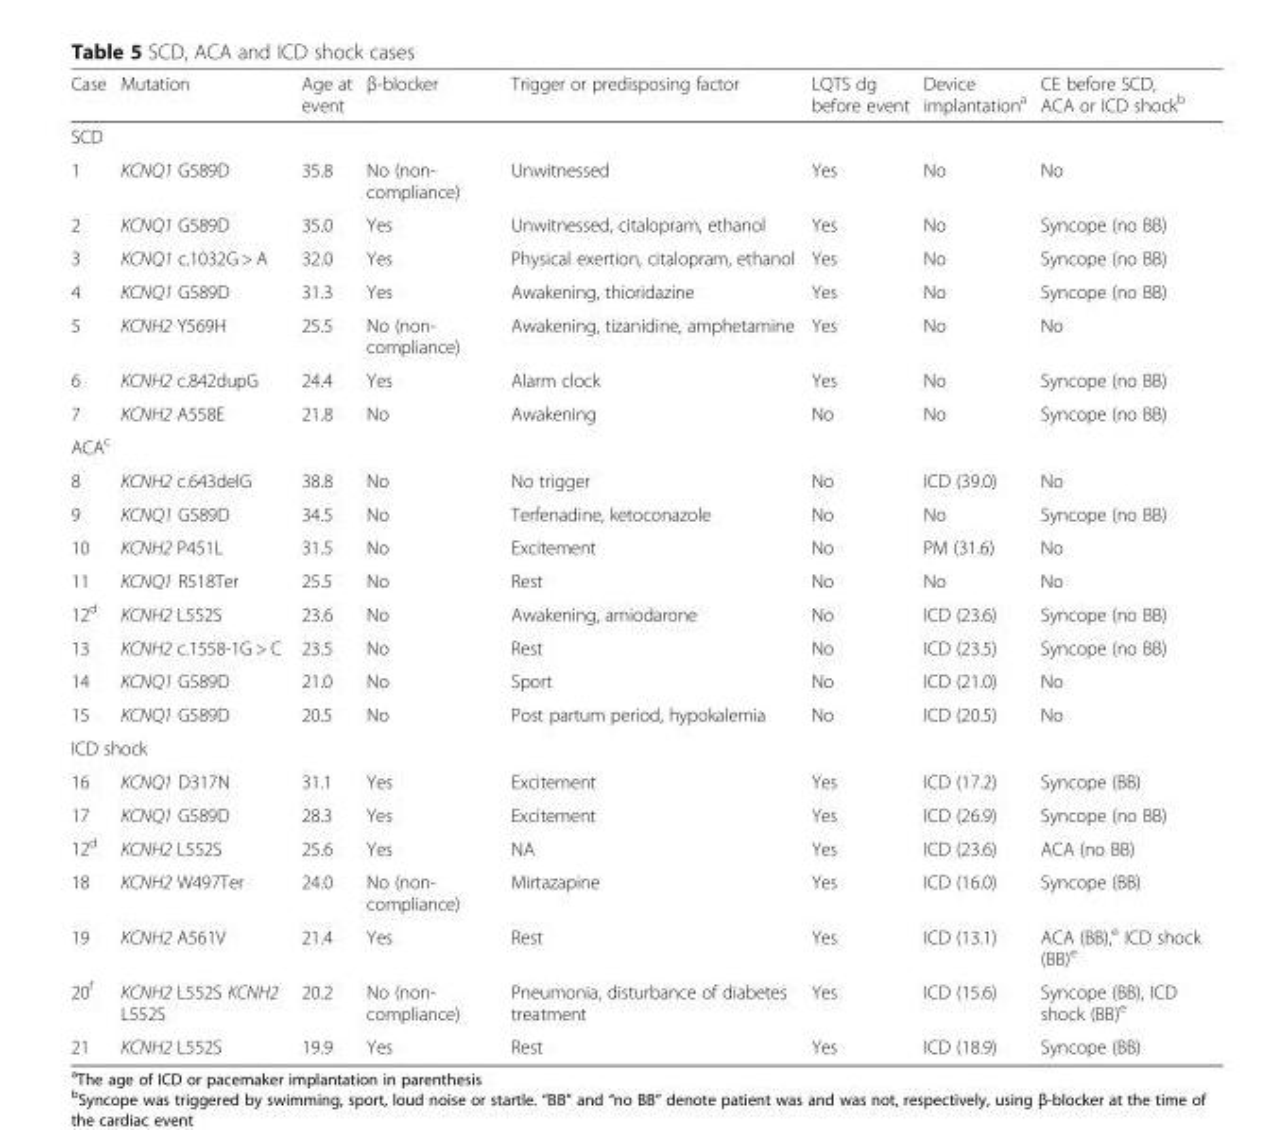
<table><thead><tr><td>Case</td><td>Mutation</td><td>Age at event</td><td>β-blocker</td><td>Trigger or predisposing factor</td><td>LQTS dg before event</td><td>Device implantation<sup>a</sup></td><td>CE before SCD, ACA or ICD shock<sup>b</sup></td></tr></thead><tbody><tr><td colspan="8">SCD</td></tr><tr><td>1</td><td>KCNQ1 G589D</td><td>35.8</td><td>No (non- compliance)</td><td>Unwitnessed</td><td>Yes</td><td>No</td><td>No</td></tr><tr><td>2</td><td>KCNQ1 G589D</td><td>35.0</td><td>Yes</td><td>Unwitnessed, citalopram, ethanol</td><td>Yes</td><td>No</td><td>Syncope (no BB)</td></tr><tr><td>3</td><td>KCNQ1 c.1032G &gt; A</td><td>32.0</td><td>Yes</td><td>Physical exertion, citalopram, ethanol</td><td>Yes</td><td>No</td><td>Syncope (no BB)</td></tr><tr><td>4</td><td>KCNQ1 G589D</td><td>31.3</td><td>Yes</td><td>Awakening, thioridazine</td><td>Yes</td><td>No</td><td>Syncope (no BB)</td></tr><tr><td>5</td><td>KCNH2 Y569H</td><td>25.5</td><td>No (non- compliance)</td><td>Awakening, tizanidine, amphetamine</td><td>Yes</td><td>No</td><td>No</td></tr><tr><td>6</td><td>KCNH2 c.842dupG</td><td>24.4</td><td>Yes</td><td>Alarm clock</td><td>Yes</td><td>No</td><td>Syncope (no BB)</td></tr><tr><td>7</td><td>KCNH2 A558E</td><td>21.8</td><td>No</td><td>Awakening</td><td>No</td><td>No</td><td>Syncope (no BB)</td></tr><tr><td colspan="8">ACA<sup>c</sup></td></tr><tr><td>8</td><td>KCNH2 c.643delG</td><td>38.8</td><td>No</td><td>No trigger</td><td>No</td><td>ICD (39.0)</td><td>No</td></tr><tr><td>9</td><td>KCNQ1 G589D</td><td>34.5</td><td>No</td><td>Terfenadine, ketoconazole</td><td>No</td><td>No</td><td>Syncope (no BB)</td></tr><tr><td>10</td><td>KCNH2 P451L</td><td>31.5</td><td>No</td><td>Excitement</td><td>No</td><td>PM (31.6)</td><td>No</td></tr><tr><td>11</td><td>KCNQ1 R518Ter</td><td>25.5</td><td>No</td><td>Rest</td><td>No</td><td>No</td><td>No</td></tr><tr><td>12<sup>d</sup></td><td>KCNH2 L552S</td><td>23.6</td><td>No</td><td>Awakening, amiodarone</td><td>No</td><td>ICD (23.6)</td><td>Syncope (no BB)</td></tr><tr><td>13</td><td>KCNH2 c.1558-1G &gt; C</td><td>23.5</td><td>No</td><td>Rest</td><td>No</td><td>ICD (23.5)</td><td>Syncope (no BB)</td></tr><tr><td>14</td><td>KCNQ1 G589D</td><td>21.0</td><td>No</td><td>Sport</td><td>No</td><td>ICD (21.0)</td><td>No</td></tr><tr><td>15</td><td>KCNQ1 G589D</td><td>20.5</td><td>No</td><td>Post partum period, hypokalemia</td><td>No</td><td>ICD (20.5)</td><td>No</td></tr><tr><td colspan="8">ICD shock</td></tr><tr><td>16</td><td>KCNQ1 D317N</td><td>31.1</td><td>Yes</td><td>Excitement</td><td>Yes</td><td>ICD (17.2)</td><td>Syncope (BB)</td></tr><tr><td>17</td><td>KCNQ1 G589D</td><td>28.3</td><td>Yes</td><td>Excitement</td><td>Yes</td><td>ICD (26.9)</td><td>Syncope (no BB)</td></tr><tr><td>12<sup>d</sup></td><td>KCNH2 L552S</td><td>25.6</td><td>Yes</td><td>NA</td><td>Yes</td><td>ICD (23.6)</td><td>ACA (no BB)</td></tr><tr><td>18</td><td>KCNH2 W497Ter</td><td>24.0</td><td>No (non- compliance)</td><td>Mirtazapine</td><td>Yes</td><td>ICD (16.0)</td><td>Syncope (BB)</td></tr><tr><td>19</td><td>KCNH2 A561V</td><td>21.4</td><td>Yes</td><td>Rest</td><td>Yes</td><td>ICD (13.1)</td><td>ACA (BB),<sup>e</sup> ICD shock (BB)<sup>e</sup></td></tr><tr><td>20<sup>f</sup></td><td>KCNH2 L552S KCNH2 L552S</td><td>20.2</td><td>No (non- compliance)</td><td>Pneumonia, disturbance of diabetes treatment</td><td>Yes</td><td>ICD (15.6)</td><td>Syncope (BB), ICD shock (BB)<sup>e</sup></td></tr><tr><td>21</td><td>KCNH2 L552S</td><td>19.9</td><td>Yes</td><td>Rest</td><td>Yes</td><td>ICD (18.9)</td><td>Syncope (BB)</td></tr></tbody></table>